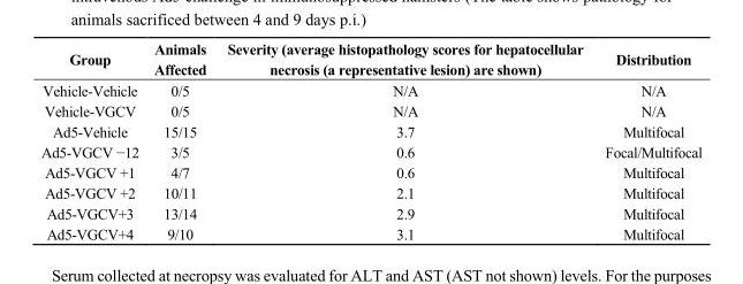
<table><thead><tr><td>Group</td><td>Animals Affected</td><td>Severity (average histopathology scores for hepatocellular necrosis (a representative lesion) are shown)</td><td>Distribution</td></tr></thead><tbody><tr><td>Vehicle-Vehicle</td><td>0/5</td><td>N/A</td><td>N/A</td></tr><tr><td>Vehicle-VGCV</td><td>0/5</td><td>N/A</td><td>N/A</td></tr><tr><td>Ad5-Vehicle</td><td>15/15</td><td>3.7</td><td>Multifocal</td></tr><tr><td>Ad5-VGCV −12</td><td>3/5</td><td>0.6</td><td>Focal/Multifocal</td></tr><tr><td>Ad5-VGCV +1</td><td>4/7</td><td>0.6</td><td>Multifocal</td></tr><tr><td>Ad5-VGCV +2</td><td>10/11</td><td>2.1</td><td>Multifocal</td></tr><tr><td>Ad5-VGCV+3</td><td>13/14</td><td>2.9</td><td>Multifocal</td></tr><tr><td>Ad5-VGCV+4</td><td>9/10</td><td>3.1</td><td>Multifocal</td></tr></tbody></table>